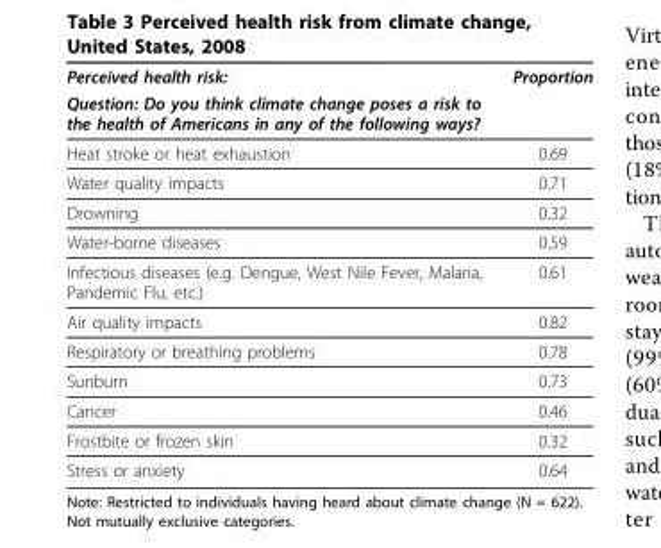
<table><thead><tr><td rowspan="2">Perceived health risk: Question: Do you think climate change poses a risk to the health of Americans in any of the following ways?</td><td rowspan="2">Proportion</td></tr><tr></tr></thead><tbody><tr><td>Heat stroke or heat exhaustion</td><td>0.69</td></tr><tr><td>Water quality impacts</td><td>0.71</td></tr><tr><td>Drowning</td><td>0.32</td></tr><tr><td>Water-borne diseases</td><td>0.59</td></tr><tr><td>Infectious diseases (e.g. Dengue, West Nile Fever, Malaria, Pandemic Flu, etc.)</td><td>0.61</td></tr><tr><td>Air quality impacts</td><td>0.82</td></tr><tr><td>Respiratory or breathing problems</td><td>0.78</td></tr><tr><td>Sunburn</td><td>0.73</td></tr><tr><td>Cancer</td><td>0.46</td></tr><tr><td>Frostbite or frozen skin</td><td>0.32</td></tr><tr><td>Stress or anxiety</td><td>0.64</td></tr></tbody></table>